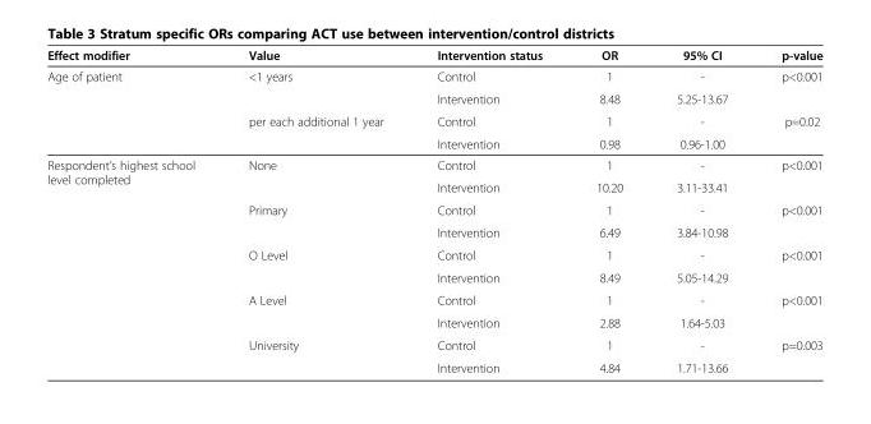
<table><thead><tr><td>Effect modifier</td><td>Value</td><td>Intervention status</td><td>OR</td><td>95% CI</td><td>p-value</td></tr></thead><tbody><tr><td rowspan="4">Age of patient</td><td>&lt;1 years</td><td>Control</td><td>1</td><td>-</td><td rowspan="2">p&lt;0.001</td></tr><tr><td></td><td>Intervention</td><td>8.48</td><td>5.25-13.67</td></tr><tr><td>per each additional 1 year</td><td>Control</td><td>1</td><td>-</td><td>p=0.02</td></tr><tr><td></td><td>Intervention</td><td>0.98</td><td>0.96-1.00</td><td></td></tr><tr><td rowspan="10">Respondent’s highest school level completed</td><td>None</td><td>Control</td><td>1</td><td>-</td><td rowspan="2">p&lt;0.001</td></tr><tr><td></td><td>Intervention</td><td>10.20</td><td>3.11-33.41</td></tr><tr><td>Primary</td><td>Control</td><td>1</td><td>-</td><td rowspan="2">p&lt;0.001</td></tr><tr><td></td><td>Intervention</td><td>6.49</td><td>3.84-10.98</td></tr><tr><td>O Level</td><td>Control</td><td>1</td><td>-</td><td rowspan="2">p&lt;0.001</td></tr><tr><td></td><td>Intervention</td><td>8.49</td><td>5.05-14.29</td></tr><tr><td>A Level</td><td>Control</td><td>1</td><td>-</td><td rowspan="2">p&lt;0.001</td></tr><tr><td></td><td>Intervention</td><td>2.88</td><td>1.64-5.03</td></tr><tr><td>University</td><td>Control</td><td>1</td><td>-</td><td>p=0.003</td></tr><tr><td></td><td>Intervention</td><td>4.84</td><td>1.71-13.66</td><td></td></tr></tbody></table>